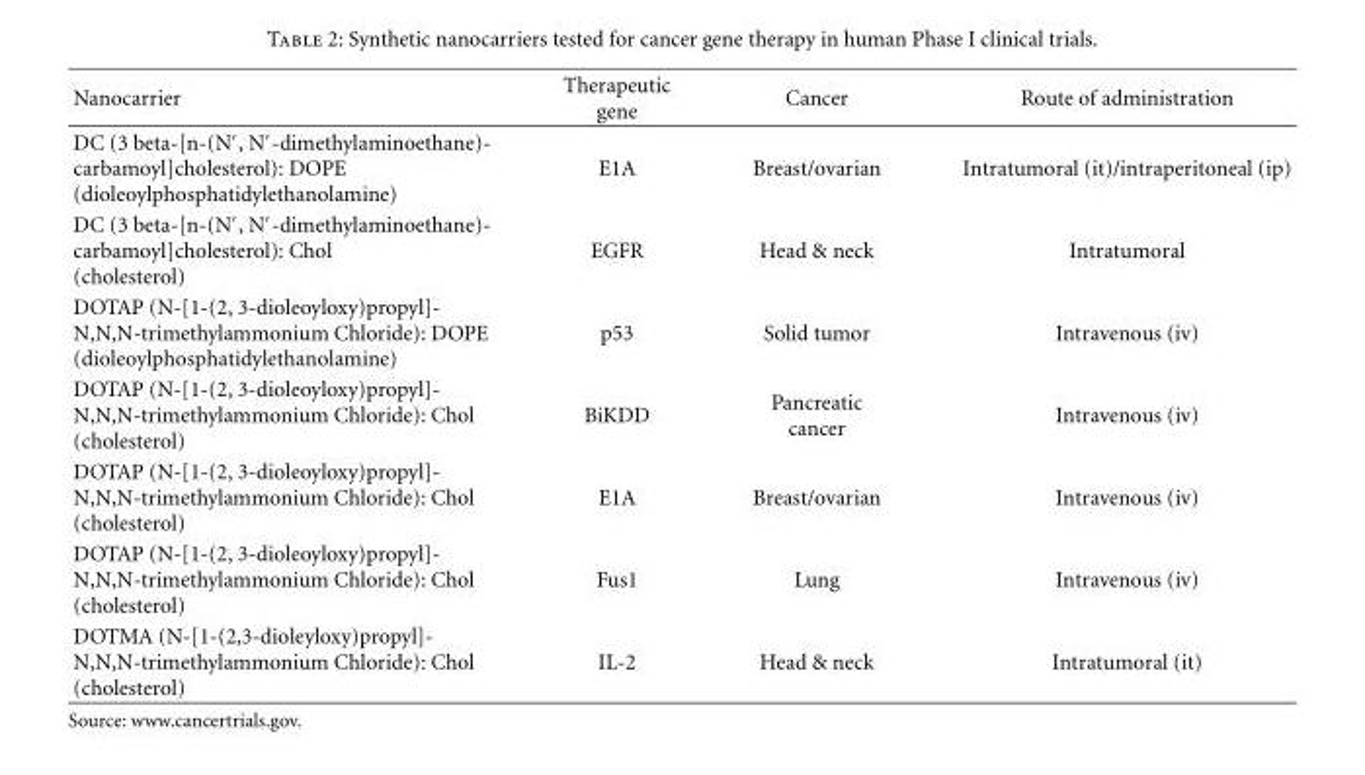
<table><thead><tr><td>Nanocarrier</td><td>Therapeutic gene</td><td>Cancer</td><td>Route of administration</td></tr></thead><tbody><tr><td>DC (3 beta-[n-(N′, N′-dimethylaminoethane)- carbamoyl]cholesterol): DOPE (dioleoylphosphatidylethanolamine)</td><td>E1A</td><td>Breast/ovarian</td><td>Intratumoral (it)/intraperitoneal (ip)</td></tr><tr><td>DC (3 beta-[n-(N′, N′-dimethylaminoethane)- carbamoyl]cholesterol): Chol (cholesterol)</td><td>EGFR</td><td>Head &amp; neck</td><td>Intratumoral</td></tr><tr><td>DOTAP (N-[1-(2, 3-dioleoyloxy)propyl]- N,N,N-trimethylammonium Chloride): DOPE (dioleoylphosphatidylethanolamine)</td><td>p53</td><td>Solid tumor</td><td>Intravenous (iv)</td></tr><tr><td>DOTAP (N-[1-(2, 3-dioleoyloxy)propyl]- N,N,N-trimethylammonium Chloride): Chol (cholesterol)</td><td>BiKDD</td><td>Pancreatic cancer</td><td>Intravenous (iv)</td></tr><tr><td>DOTAP (N-[1-(2, 3-dioleoyloxy)propyl]- N,N,N-trimethylammonium Chloride): Chol (cholesterol)</td><td>E1A</td><td>Breast/ovarian</td><td>Intravenous (iv)</td></tr><tr><td>DOTAP (N-[1-(2, 3-dioleoyloxy)propyl]- N,N,N-trimethylammonium Chloride): Chol (cholesterol)</td><td>Fus1</td><td>Lung</td><td>Intravenous (iv)</td></tr><tr><td>DOTMA (N-[1-(2,3-dioleyloxy)propyl]- N,N,N-trimethylammonium Chloride): Chol (cholesterol)</td><td>IL-2</td><td>Head &amp; neck</td><td>Intratumoral (it)</td></tr></tbody></table>